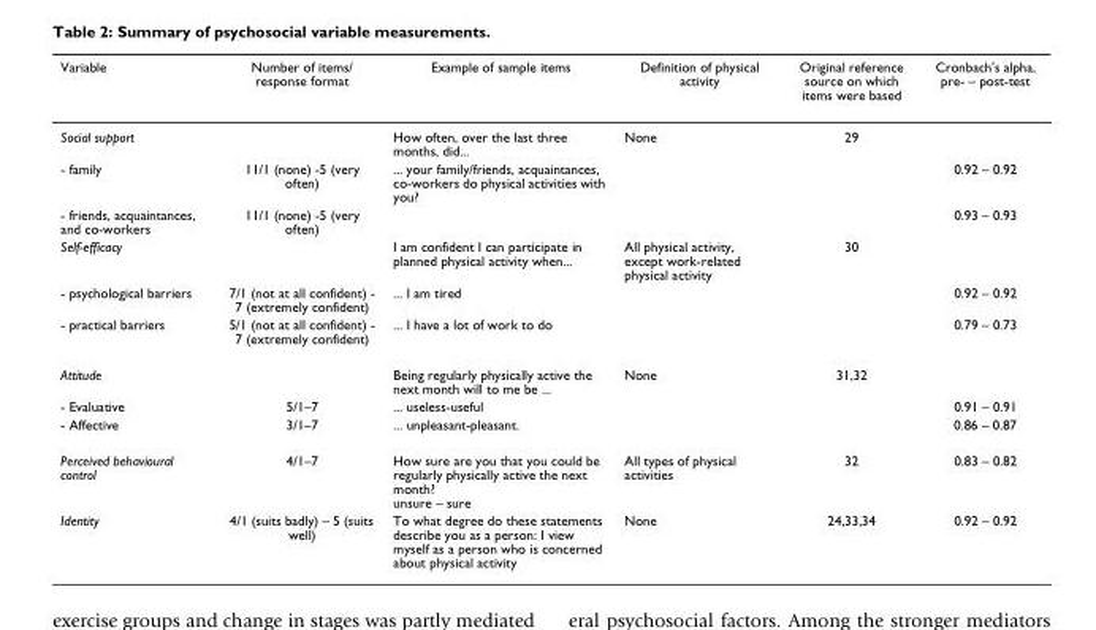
<table><thead><tr><td>Variable</td><td>Number of items/ response format</td><td>Example of sample items</td><td>Definition of physical activity</td><td>Original reference source on which items were based</td><td>Cronbach&#x27;s alpha, pre- – post-test</td></tr></thead><tbody><tr><td>Social support</td><td></td><td>How often, over the last three months, did...</td><td>None</td><td>29</td><td></td></tr><tr><td>- family</td><td>11/1 (none) -5 (very often)</td><td>... your family/friends, acquaintances, co-workers do physical activities with you?</td><td></td><td></td><td>0.92 – 0.92</td></tr><tr><td>- friends, acquaintances, and co-workers</td><td>11/1 (none) -5 (very often)</td><td></td><td></td><td></td><td>0.93 – 0.93</td></tr><tr><td>Self-efficacy</td><td></td><td>I am confident I can participate in planned physical activity when...</td><td>All physical activity, except work-related physical activity</td><td>30</td><td></td></tr><tr><td>- psychological barriers</td><td>7/1 (not at all confident) - 7 (extremely confident)</td><td>... I am tired</td><td></td><td></td><td>0.92 – 0.92</td></tr><tr><td>- practical barriers</td><td>5/1 (not at all confident) - 7 (extremely confident)</td><td>... I have a lot of work to do</td><td></td><td></td><td>0.79 – 0.73</td></tr><tr><td>Attitude</td><td></td><td>Being regularly physically active the next month will to me be ...</td><td>None</td><td>31,32</td><td></td></tr><tr><td>- Evaluative</td><td>5/1–7</td><td>... useless-useful</td><td></td><td></td><td>0.91 – 0.91</td></tr><tr><td>- Affective</td><td>3/1–7</td><td>... unpleasant-pleasant.</td><td></td><td></td><td>0.86 – 0.87</td></tr><tr><td>Perceived behavioural control</td><td>4/1–7</td><td>How sure are you that you could be regularly physically active the next month? unsure – sure</td><td>All types of physical activities</td><td>32</td><td>0.83 – 0.82</td></tr><tr><td>Identity</td><td>4/1 (suits badly) – 5 (suits well)</td><td>To what degree do these statements describe you as a person: I view myself as a person who is concerned about physical activity</td><td>None</td><td>24,33,34</td><td>0.92 – 0.92</td></tr></tbody></table>